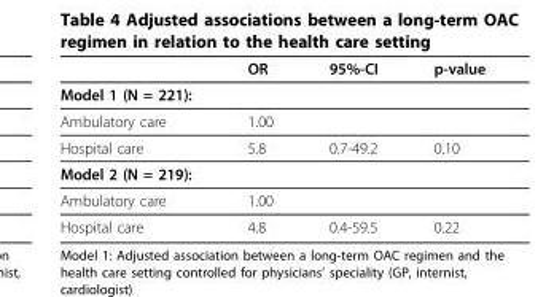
<table><thead><tr><td></td><td>OR</td><td>95%-CI</td><td>p-value</td></tr></thead><tbody><tr><td colspan="4">Model 1 (N = 221):</td></tr><tr><td>Ambulatory care</td><td>1.00</td><td></td><td></td></tr><tr><td>Hospital care</td><td>5.8</td><td>0.7-49.2</td><td>0.10</td></tr><tr><td colspan="4">Model 2 (N = 219):</td></tr><tr><td>Ambulatory care</td><td>1.00</td><td></td><td></td></tr><tr><td>Hospital care</td><td>4.8</td><td>0.4-59.5</td><td>0.22</td></tr></tbody></table>